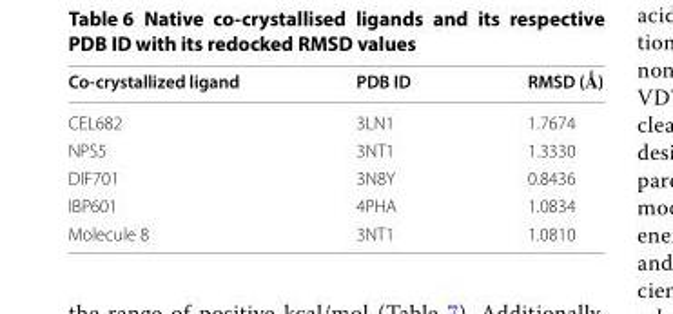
<table><thead><tr><td>Co-crystallized ligand</td><td>PDB ID</td><td>RMSD (Ǻ)</td></tr></thead><tbody><tr><td>CEL682</td><td>3LN1</td><td>1.7674</td></tr><tr><td>NPS5</td><td>3NT1</td><td>1.3330</td></tr><tr><td>DIF701</td><td>3N8Y</td><td>0.8436</td></tr><tr><td>IBP601</td><td>4PHA</td><td>1.0834</td></tr><tr><td>Molecule 8</td><td>3NT1</td><td>1.0810</td></tr></tbody></table>